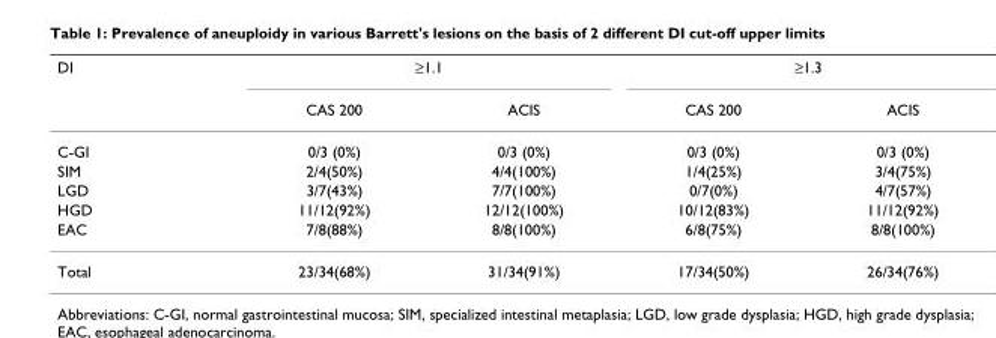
<table><thead><tr><td rowspan="2">DI</td><td colspan="2">≥1.1</td><td colspan="2">≥1.3</td></tr><tr><td>CAS 200</td><td>ACIS</td><td>CAS 200</td><td>ACIS</td></tr></thead><tbody><tr><td>C-GI</td><td>0/3 (0%)</td><td>0/3 (0%)</td><td>0/3 (0%)</td><td>0/3 (0%)</td></tr><tr><td>SIM</td><td>2/4(50%)</td><td>4/4(100%)</td><td>1/4(25%)</td><td>3/4(75%)</td></tr><tr><td>LGD</td><td>3/7(43%)</td><td>7/7(100%)</td><td>0/7(0%)</td><td>4/7(57%)</td></tr><tr><td>HGD</td><td>11/12(92%)</td><td>12/12(100%)</td><td>10/12(83%)</td><td>11/12(92%)</td></tr><tr><td>EAC</td><td>7/8(88%)</td><td>8/8(100%)</td><td>6/8(75%)</td><td>8/8(100%)</td></tr><tr><td>Total</td><td>23/34(68%)</td><td>31/34(91%)</td><td>17/34(50%)</td><td>26/34(76%)</td></tr></tbody></table>